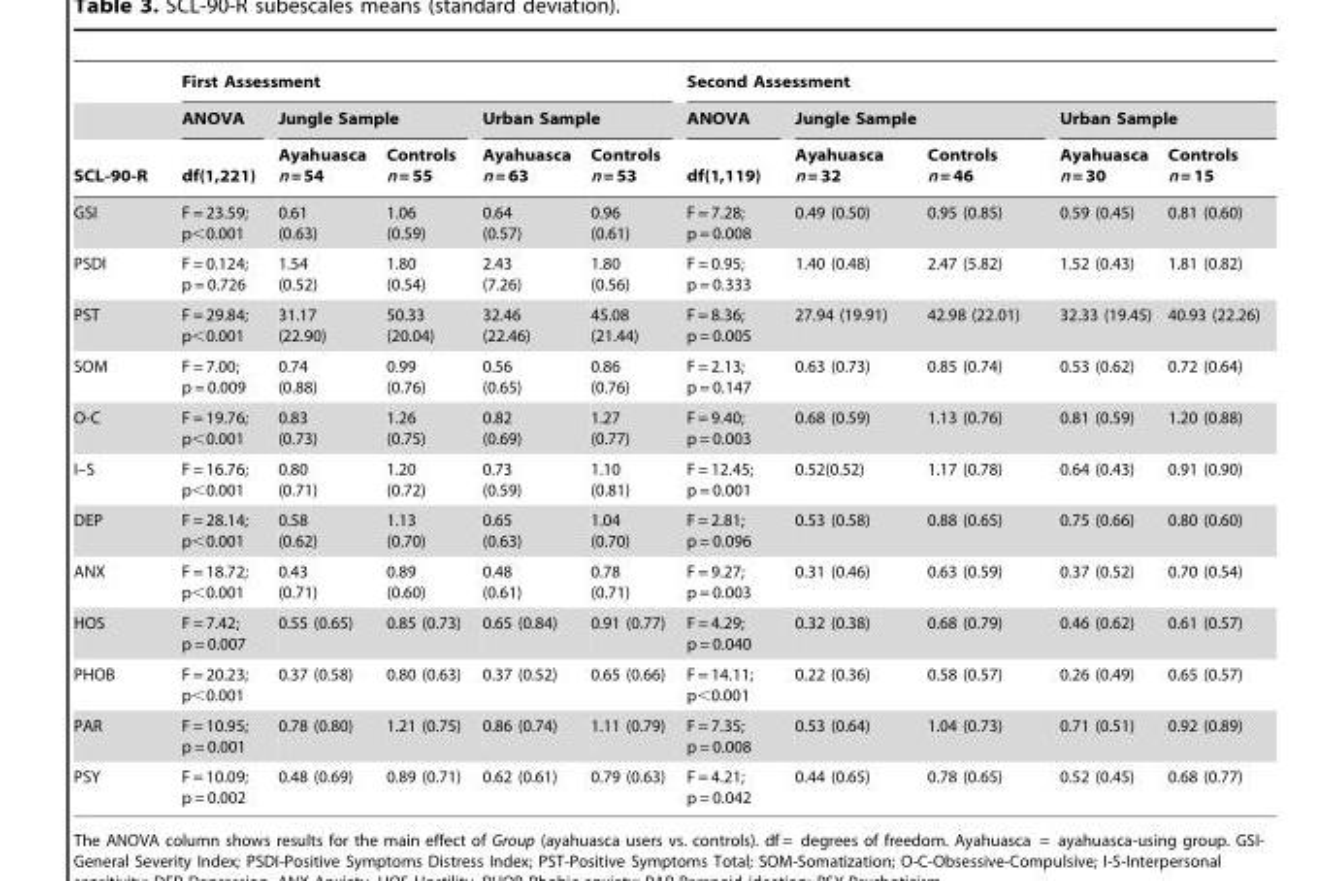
<table><thead><tr><td rowspan="3">SCL-90-R</td><td colspan="5">First Assessment</td><td colspan="5">Second Assessment</td></tr><tr><td rowspan="2">ANOVA df(1,221)</td><td colspan="2">Jungle Sample</td><td colspan="2">Urban Sample</td><td rowspan="2">ANOVA df(1,119)</td><td colspan="2">Jungle Sample</td><td colspan="2">Urban Sample</td></tr><tr><td>Ayahuasca n = 54</td><td>Controls n = 55</td><td>Ayahuasca n = 63</td><td>Controls n = 53</td><td>Ayahuasca n = 32</td><td>Controls n = 46</td><td>Ayahuasca n = 30</td><td>Controls n = 15</td></tr></thead><tbody><tr><td>GSI</td><td>F = 23.59; p&lt;0.001</td><td>0.61 (0.63)</td><td>1.06 (0.59)</td><td>0.64 (0.57)</td><td>0.96 (0.61)</td><td>F = 7.28; p = 0.008</td><td>0.49 (0.50)</td><td>0.95 (0.85)</td><td>0.59 (0.45)</td><td>0.81 (0.60)</td></tr><tr><td>PSDI</td><td>F = 0.124; p = 0.726</td><td>1.54 (0.52)</td><td>1.80 (0.54)</td><td>2.43 (7.26)</td><td>1.80 (0.56)</td><td>F = 0.95; p = 0.333</td><td>1.40 (0.48)</td><td>2.47 (5.82)</td><td>1.52 (0.43)</td><td>1.81 (0.82)</td></tr><tr><td>PST</td><td>F = 29.84; p&lt;0.001</td><td>31.17 (22.90)</td><td>50.33 (20.04)</td><td>32.46 (22.46)</td><td>45.08 (21.44)</td><td>F = 8.36; p = 0.005</td><td>27.94 (19.91)</td><td>42.98 (22.01)</td><td>32.33 (19.45)</td><td>40.93 (22.26)</td></tr><tr><td>SOM</td><td>F = 7.00; p = 0.009</td><td>0.74 (0.88)</td><td>0.99 (0.76)</td><td>0.56 (0.65)</td><td>0.86 (0.76)</td><td>F = 2.13; p = 0.147</td><td>0.63 (0.73)</td><td>0.85 (0.74)</td><td>0.53 (0.62)</td><td>0.72 (0.64)</td></tr><tr><td>O-C</td><td>F = 19.76; p&lt;0.001</td><td>0.83 (0.73)</td><td>1.26 (0.75)</td><td>0.82 (0.69)</td><td>1.27 (0.77)</td><td>F = 9.40; p = 0.003</td><td>0.68 (0.59)</td><td>1.13 (0.76)</td><td>0.81 (0.59)</td><td>1.20 (0.88)</td></tr><tr><td>I–S</td><td>F = 16.76; p&lt;0.001</td><td>0.80 (0.71)</td><td>1.20 (0.72)</td><td>0.73 (0.59)</td><td>1.10 (0.81)</td><td>F = 12.45; p = 0.001</td><td>0.52(0.52)</td><td>1.17 (0.78)</td><td>0.64 (0.43)</td><td>0.91 (0.90)</td></tr><tr><td>DEP</td><td>F = 28.14; p&lt;0.001</td><td>0.58 (0.62)</td><td>1.13 (0.70)</td><td>0.65 (0.63)</td><td>1.04 (0.70)</td><td>F = 2.81; p = 0.096</td><td>0.53 (0.58)</td><td>0.88 (0.65)</td><td>0.75 (0.66)</td><td>0.80 (0.60)</td></tr><tr><td>ANX</td><td>F = 18.72; p&lt;0.001</td><td>0.43 (0.71)</td><td>0.89 (0.60)</td><td>0.48 (0.61)</td><td>0.78 (0.71)</td><td>F = 9.27; p = 0.003</td><td>0.31 (0.46)</td><td>0.63 (0.59)</td><td>0.37 (0.52)</td><td>0.70 (0.54)</td></tr><tr><td>HOS</td><td>F = 7.42; p = 0.007</td><td>0.55 (0.65)</td><td>0.85 (0.73)</td><td>0.65 (0.84)</td><td>0.91 (0.77)</td><td>F = 4.29; p = 0.040</td><td>0.32 (0.38)</td><td>0.68 (0.79)</td><td>0.46 (0.62)</td><td>0.61 (0.57)</td></tr><tr><td>PHOB</td><td>F = 20.23; p&lt;0.001</td><td>0.37 (0.58)</td><td>0.80 (0.63)</td><td>0.37 (0.52)</td><td>0.65 (0.66)</td><td>F = 14.11; p&lt;0.001</td><td>0.22 (0.36)</td><td>0.58 (0.57)</td><td>0.26 (0.49)</td><td>0.65 (0.57)</td></tr><tr><td>PAR</td><td>F = 10.95; p = 0.001</td><td>0.78 (0.80)</td><td>1.21 (0.75)</td><td>0.86 (0.74)</td><td>1.11 (0.79)</td><td>F = 7.35; p = 0.008</td><td>0.53 (0.64)</td><td>1.04 (0.73)</td><td>0.71 (0.51)</td><td>0.92 (0.89)</td></tr><tr><td>PSY</td><td>F = 10.09; p = 0.002</td><td>0.48 (0.69)</td><td>0.89 (0.71)</td><td>0.62 (0.61)</td><td>0.79 (0.63)</td><td>F = 4.21; p = 0.042</td><td>0.44 (0.65)</td><td>0.78 (0.65)</td><td>0.52 (0.45)</td><td>0.68 (0.77)</td></tr></tbody></table>